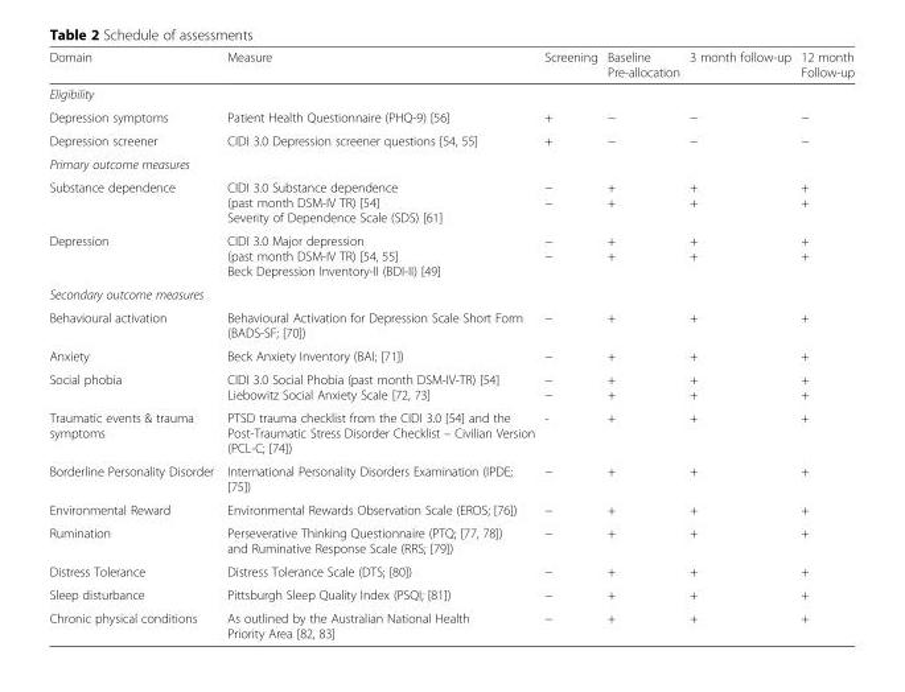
<table><thead><tr><td>Domain</td><td>Measure</td><td>Screening</td><td>Baseline Pre-allocation</td><td>3 month follow-up</td><td>12 month Follow-up</td></tr></thead><tbody><tr><td colspan="6">Eligibility</td></tr><tr><td>Depression symptoms</td><td>Patient Health Questionnaire (PHQ-9) [56]</td><td>+</td><td>−</td><td>−</td><td>−</td></tr><tr><td>Depression screener</td><td>CIDI 3.0 Depression screener questions [54, 55]</td><td>+</td><td>−</td><td>−</td><td>−</td></tr><tr><td colspan="6">Primary outcome measures</td></tr><tr><td>Substance dependence</td><td>CIDI 3.0 Substance dependence (past month DSM-IV TR) [54] Severity of Dependence Scale (SDS) [61]</td><td>− −</td><td>+ +</td><td>+ +</td><td>+ +</td></tr><tr><td>Depression</td><td>CIDI 3.0 Major depression (past month DSM-IV TR) [54, 55] Beck Depression Inventory-II (BDI-II) [49]</td><td>− −</td><td>+ +</td><td>+ +</td><td>+ +</td></tr><tr><td colspan="6">Secondary outcome measures</td></tr><tr><td>Behavioural activation</td><td>Behavioural Activation for Depression Scale Short Form (BADS-SF; [70])</td><td>−</td><td>+</td><td>+</td><td>+</td></tr><tr><td>Anxiety</td><td>Beck Anxiety Inventory (BAI; [71])</td><td>−</td><td>+</td><td>+</td><td>+</td></tr><tr><td>Social phobia</td><td>CIDI 3.0 Social Phobia (past month DSM-IV-TR) [54] Liebowitz Social Anxiety Scale [72, 73]</td><td>− −</td><td>+ +</td><td>+ +</td><td>+ +</td></tr><tr><td>Traumatic events &amp; trauma symptoms</td><td>PTSD trauma checklist from the CIDI 3.0 [54] and the Post-Traumatic Stress Disorder Checklist – Civilian Version (PCL-C; [74])</td><td>-</td><td>+</td><td>+</td><td>+</td></tr><tr><td>Borderline Personality Disorder</td><td>International Personality Disorders Examination (IPDE; [75])</td><td>−</td><td>+</td><td>+</td><td>+</td></tr><tr><td>Environmental Reward</td><td>Environmental Rewards Observation Scale (EROS; [76])</td><td>−</td><td>+</td><td>+</td><td>+</td></tr><tr><td>Rumination</td><td>Perseverative Thinking Questionnaire (PTQ; [77, 78]) and Ruminative Response Scale (RRS; [79])</td><td>−</td><td>+</td><td>+</td><td>+</td></tr><tr><td>Distress Tolerance</td><td>Distress Tolerance Scale (DTS; [80])</td><td>−</td><td>+</td><td>+</td><td>+</td></tr><tr><td>Sleep disturbance</td><td>Pittsburgh Sleep Quality Index (PSQI; [81])</td><td>−</td><td>+</td><td>+</td><td>+</td></tr><tr><td>Chronic physical conditions</td><td>As outlined by the Australian National Health Priority Area [82, 83]</td><td>−</td><td>+</td><td>+</td><td>+</td></tr></tbody></table>